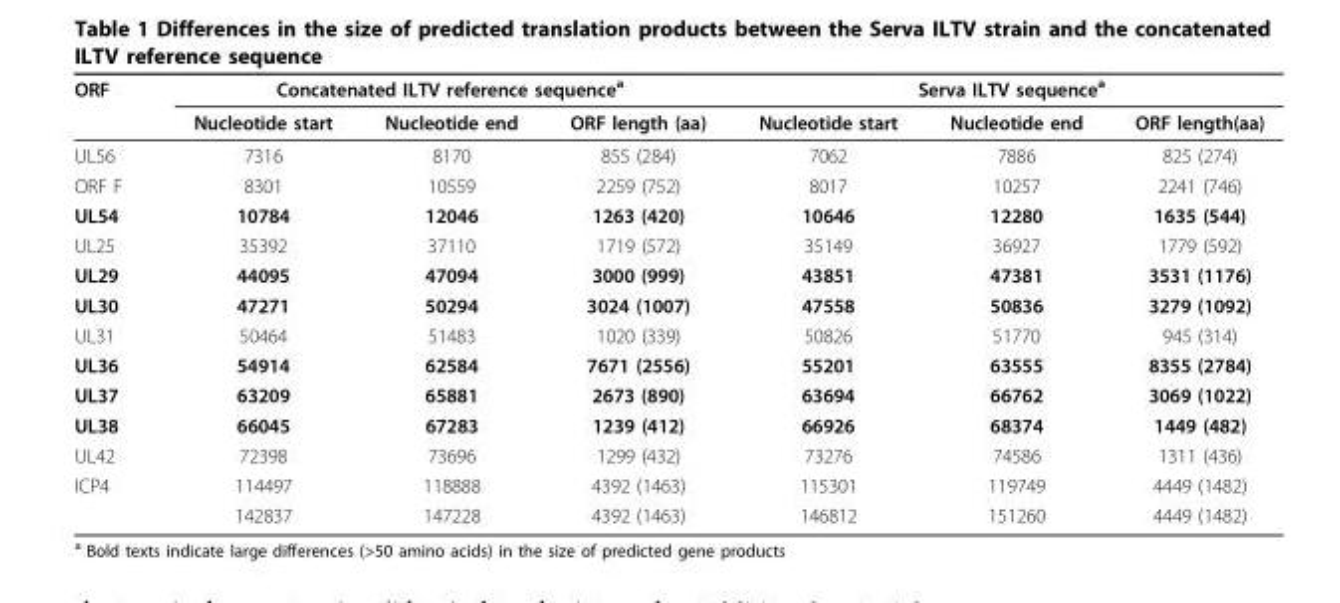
<table><thead><tr><td rowspan="2">ORF</td><td colspan="3">Concatenated ILTV reference sequence<sup>a</sup></td><td colspan="3">Serva ILTV sequence<sup>a</sup></td></tr><tr><td>Nucleotide start</td><td>Nucleotide end</td><td>ORF length (aa)</td><td>Nucleotide start</td><td>Nucleotide end</td><td>ORF length(aa)</td></tr></thead><tbody><tr><td>UL56</td><td>7316</td><td>8170</td><td>855 (284)</td><td>7062</td><td>7886</td><td>825 (274)</td></tr><tr><td>ORF F</td><td>8301</td><td>10559</td><td>2259 (752)</td><td>8017</td><td>10257</td><td>2241 (746)</td></tr><tr><td>UL54</td><td>10784</td><td>12046</td><td>1263 (420)</td><td>10646</td><td>12280</td><td>1635 (544)</td></tr><tr><td>UL25</td><td>35392</td><td>37110</td><td>1719 (572)</td><td>35149</td><td>36927</td><td>1779 (592)</td></tr><tr><td>UL29</td><td>44095</td><td>47094</td><td>3000 (999)</td><td>43851</td><td>47381</td><td>3531 (1176)</td></tr><tr><td>UL30</td><td>47271</td><td>50294</td><td>3024 (1007)</td><td>47558</td><td>50836</td><td>3279 (1092)</td></tr><tr><td>UL31</td><td>50464</td><td>51483</td><td>1020 (339)</td><td>50826</td><td>51770</td><td>945 (314)</td></tr><tr><td>UL36</td><td>54914</td><td>62584</td><td>7671 (2556)</td><td>55201</td><td>63555</td><td>8355 (2784)</td></tr><tr><td>UL37</td><td>63209</td><td>65881</td><td>2673 (890)</td><td>63694</td><td>66762</td><td>3069 (1022)</td></tr><tr><td>UL38</td><td>66045</td><td>67283</td><td>1239 (412)</td><td>66926</td><td>68374</td><td>1449 (482)</td></tr><tr><td>UL42</td><td>72398</td><td>73696</td><td>1299 (432)</td><td>73276</td><td>74586</td><td>1311 (436)</td></tr><tr><td rowspan="2">ICP4</td><td>114497</td><td>118888</td><td>4392 (1463)</td><td>115301</td><td>119749</td><td>4449 (1482)</td></tr><tr><td>142837</td><td>147228</td><td>4392 (1463)</td><td>146812</td><td>151260</td><td>4449 (1482)</td></tr></tbody></table>